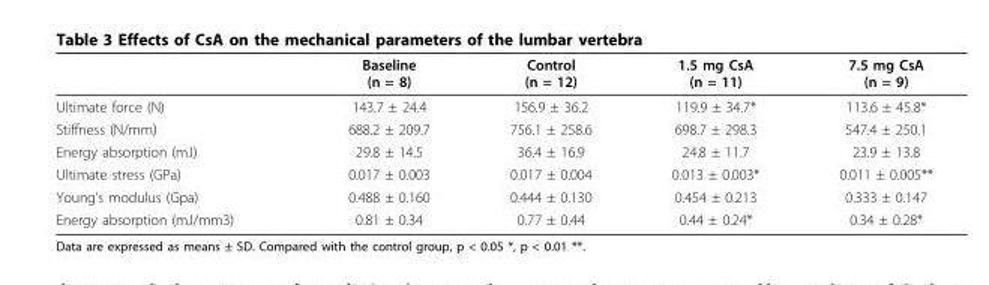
<table><thead><tr><td></td><td>Baseline (n = 8)</td><td>Control (n = 12)</td><td>1.5 mg CsA (n = 11)</td><td>7.5 mg CsA (n = 9)</td></tr></thead><tbody><tr><td>Ultimate force (N)</td><td>143.7 ± 24.4</td><td>156.9 ± 36.2</td><td>119.9 ± 34.7*</td><td>113.6 ± 45.8*</td></tr><tr><td>Stiffness (N/mm)</td><td>688.2 ± 209.7</td><td>756.1 ± 258.6</td><td>698.7 ± 298.3</td><td>547.4 ± 250.1</td></tr><tr><td>Energy absorption (mJ)</td><td>29.8 ± 14.5</td><td>36.4 ± 16.9</td><td>24.8 ± 11.7</td><td>23.9 ± 13.8</td></tr><tr><td>Ultimate stress (GPa)</td><td>0.017 ± 0.003</td><td>0.017 ± 0.004</td><td>0.013 ± 0.003*</td><td>0.011 ± 0.005**</td></tr><tr><td>Young’s modulus (Gpa)</td><td>0.488 ± 0.160</td><td>0.444 ± 0.130</td><td>0.454 ± 0.213</td><td>0.333 ± 0.147</td></tr><tr><td>Energy absorption (mJ/mm3)</td><td>0.81 ± 0.34</td><td>0.77 ± 0.44</td><td>0.44 ± 0.24*</td><td>0.34 ± 0.28*</td></tr></tbody></table>